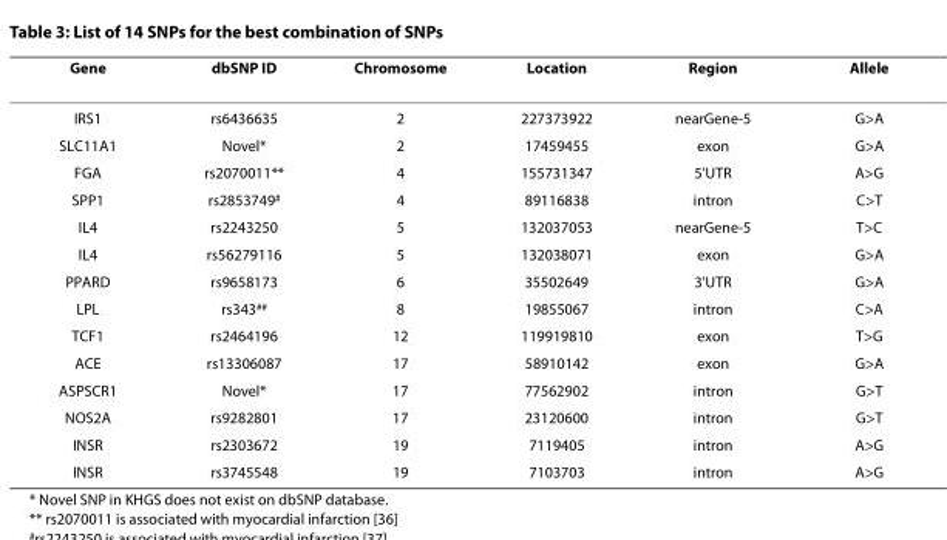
<table><thead><tr><td>Gene</td><td>dbSNP ID</td><td>Chromosome</td><td>Location</td><td>Region</td><td>Allele</td></tr></thead><tbody><tr><td>IRS1</td><td>rs6436635</td><td>2</td><td>227373922</td><td>nearGene-5</td><td>G&gt;A</td></tr><tr><td>SLC11A1</td><td>Novel*</td><td>2</td><td>17459455</td><td>exon</td><td>G&gt;A</td></tr><tr><td>FGA</td><td>rs2070011**</td><td>4</td><td>155731347</td><td>5&#x27;UTR</td><td>A&gt;G</td></tr><tr><td>SPP1</td><td>rs2853749<sup>#</sup></td><td>4</td><td>89116838</td><td>intron</td><td>C&gt;T</td></tr><tr><td>IL4</td><td>rs2243250</td><td>5</td><td>132037053</td><td>nearGene-5</td><td>T&gt;C</td></tr><tr><td>IL4</td><td>rs56279116</td><td>5</td><td>132038071</td><td>exon</td><td>G&gt;A</td></tr><tr><td>PPARD</td><td>rs9658173</td><td>6</td><td>35502649</td><td>3&#x27;UTR</td><td>G&gt;A</td></tr><tr><td>LPL</td><td>rs343<sup>##</sup></td><td>8</td><td>19855067</td><td>intron</td><td>C&gt;A</td></tr><tr><td>TCF1</td><td>rs2464196</td><td>12</td><td>119919810</td><td>exon</td><td>T&gt;G</td></tr><tr><td>ACE</td><td>rs13306087</td><td>17</td><td>58910142</td><td>exon</td><td>G&gt;A</td></tr><tr><td>ASPSCR1</td><td>Novel*</td><td>17</td><td>77562902</td><td>intron</td><td>G&gt;T</td></tr><tr><td>NOS2A</td><td>rs9282801</td><td>17</td><td>23120600</td><td>intron</td><td>G&gt;T</td></tr><tr><td>INSR</td><td>rs2303672</td><td>19</td><td>7119405</td><td>intron</td><td>A&gt;G</td></tr><tr><td>INSR</td><td>rs3745548</td><td>19</td><td>7103703</td><td>intron</td><td>A&gt;G</td></tr></tbody></table>